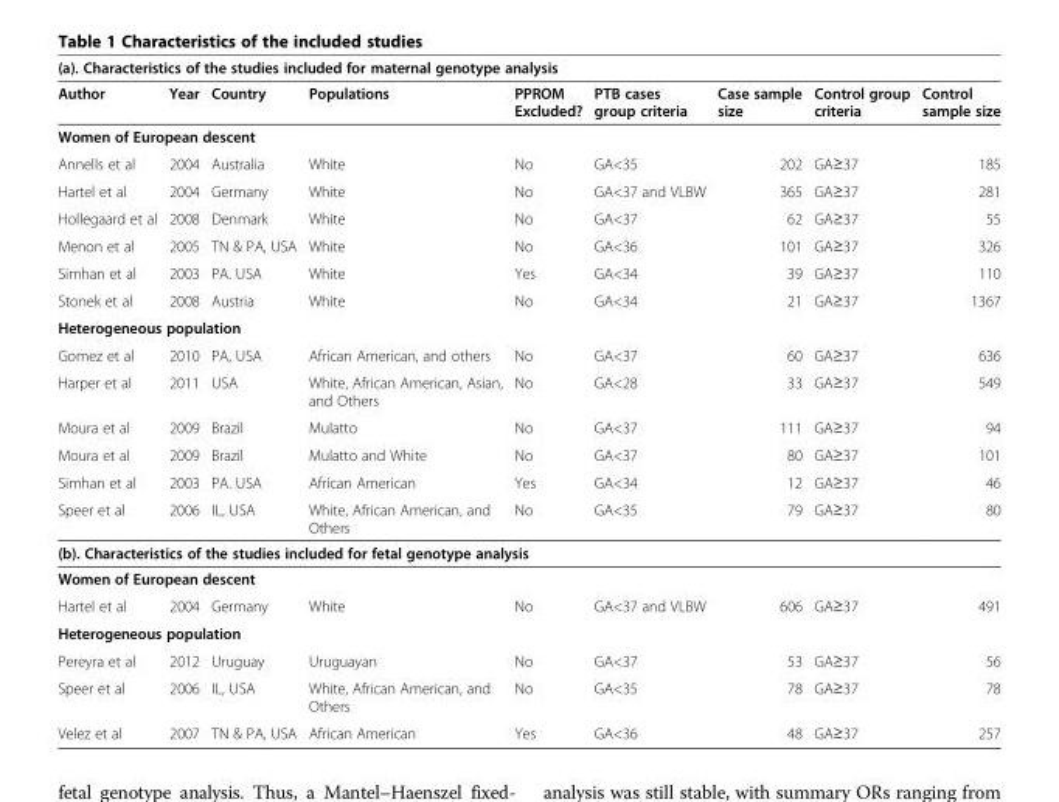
<table><tbody><tr><td colspan="9">(a). Characteristics of the studies included for maternal genotype analysis</td></tr><tr><td>Author</td><td>Year</td><td>Country</td><td>Populations</td><td>PPROM Excluded?</td><td>PTB cases group criteria</td><td>Case sample size</td><td>Control group criteria</td><td>Control sample size</td></tr><tr><td colspan="9">Women of European descent</td></tr><tr><td>Annells et al</td><td>2004</td><td>Australia</td><td>White</td><td>No</td><td>GA&lt;35</td><td>202</td><td>GA≥37</td><td>185</td></tr><tr><td>Hartel et al</td><td>2004</td><td>Germany</td><td>White</td><td>No</td><td>GA&lt;37 and VLBW</td><td>365</td><td>GA≥37</td><td>281</td></tr><tr><td>Hollegaard et al</td><td>2008</td><td>Denmark</td><td>White</td><td>No</td><td>GA&lt;37</td><td>62</td><td>GA≥37</td><td>55</td></tr><tr><td>Menon et al</td><td>2005</td><td>TN &amp; PA, USA</td><td>White</td><td>No</td><td>GA&lt;36</td><td>101</td><td>GA≥37</td><td>326</td></tr><tr><td>Simhan et al</td><td>2003</td><td>PA. USA</td><td>White</td><td>Yes</td><td>GA&lt;34</td><td>39</td><td>GA≥37</td><td>110</td></tr><tr><td>Stonek et al</td><td>2008</td><td>Austria</td><td>White</td><td>No</td><td>GA&lt;34</td><td>21</td><td>GA≥37</td><td>1367</td></tr><tr><td colspan="9">Heterogeneous population</td></tr><tr><td>Gomez et al</td><td>2010</td><td>PA, USA</td><td>African American, and others</td><td>No</td><td>GA&lt;37</td><td>60</td><td>GA≥37</td><td>636</td></tr><tr><td>Harper et al</td><td>2011</td><td>USA</td><td>White, African American, Asian, and Others</td><td>No</td><td>GA&lt;28</td><td>33</td><td>GA≥37</td><td>549</td></tr><tr><td>Moura et al</td><td>2009</td><td>Brazil</td><td>Mulatto</td><td>No</td><td>GA&lt;37</td><td>111</td><td>GA≥37</td><td>94</td></tr><tr><td>Moura et al</td><td>2009</td><td>Brazil</td><td>Mulatto and White</td><td>No</td><td>GA&lt;37</td><td>80</td><td>GA≥37</td><td>101</td></tr><tr><td>Simhan et al</td><td>2003</td><td>PA. USA</td><td>African American</td><td>Yes</td><td>GA&lt;34</td><td>12</td><td>GA≥37</td><td>46</td></tr><tr><td>Speer et al</td><td>2006</td><td>IL, USA</td><td>White, African American, and Others</td><td>No</td><td>GA&lt;35</td><td>79</td><td>GA≥37</td><td>80</td></tr><tr><td colspan="9">(b). Characteristics of the studies included for fetal genotype analysis</td></tr><tr><td colspan="9">Women of European descent</td></tr><tr><td>Hartel et al</td><td>2004</td><td>Germany</td><td>White</td><td>No</td><td>GA&lt;37 and VLBW</td><td>606</td><td>GA≥37</td><td>491</td></tr><tr><td colspan="9">Heterogeneous population</td></tr><tr><td>Pereyra et al</td><td>2012</td><td>Uruguay</td><td>Uruguayan</td><td>No</td><td>GA&lt;37</td><td>53</td><td>GA≥37</td><td>56</td></tr><tr><td>Speer et al</td><td>2006</td><td>IL, USA</td><td>White, African American, and Others</td><td>No</td><td>GA&lt;35</td><td>78</td><td>GA≥37</td><td>78</td></tr><tr><td>Velez et al</td><td>2007</td><td>TN &amp; PA, USA</td><td>African American</td><td>Yes</td><td>GA&lt;36</td><td>48</td><td>GA≥37</td><td>257</td></tr></tbody></table>